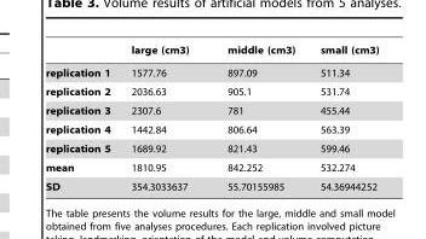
<table><thead><tr><td></td><td>large (cm3)</td><td>middle (cm3)</td><td>small (cm3)</td></tr></thead><tbody><tr><td>replication 1</td><td>1577.76</td><td>897.09</td><td>511.34</td></tr><tr><td>replication 2</td><td>2036.63</td><td>905.1</td><td>531.74</td></tr><tr><td>replication 3</td><td>2307.6</td><td>781</td><td>455.44</td></tr><tr><td>replication 4</td><td>1442.84</td><td>806.64</td><td>563.39</td></tr><tr><td>replication 5</td><td>1689.92</td><td>821.43</td><td>599.46</td></tr><tr><td>mean</td><td>1810.95</td><td>842.252</td><td>532.274</td></tr><tr><td>SD</td><td>354.3033637</td><td>55.70155985</td><td>54.36944252</td></tr></tbody></table>